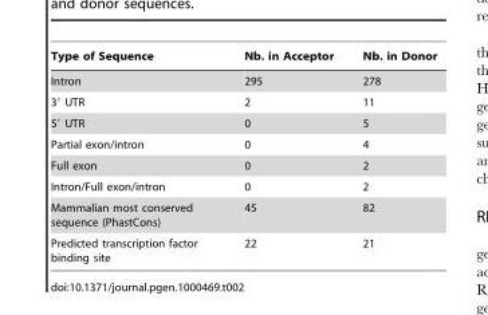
<table><thead><tr><td>Type of Sequence</td><td>Nb. in Acceptor</td><td>Nb. in Donor</td></tr></thead><tbody><tr><td>Intron</td><td>295</td><td>278</td></tr><tr><td>3′ UTR</td><td>2</td><td>11</td></tr><tr><td>5′ UTR</td><td>0</td><td>5</td></tr><tr><td>Partial exon/intron</td><td>0</td><td>4</td></tr><tr><td>Full exon</td><td>0</td><td>2</td></tr><tr><td>Intron/Full exon/intron</td><td>0</td><td>2</td></tr><tr><td>Mammalian most conserved sequence (PhastCons)</td><td>45</td><td>82</td></tr><tr><td>Predicted transcription factor binding site</td><td>22</td><td>21</td></tr></tbody></table>